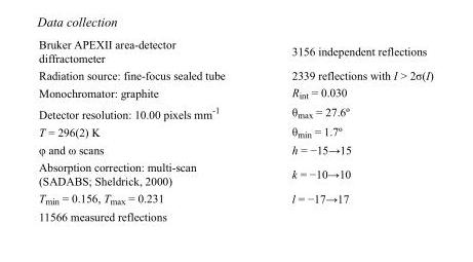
<table><tbody><tr><td>Bruker APEXII area-detector diffractometer</td><td>3156 independent reflections</td></tr><tr><td>Radiation source: fine-focus sealed tube</td><td>2339 reflections with I &gt; 2σ(I)</td></tr><tr><td>Monochromator: graphite</td><td>R<sub>int</sub> = 0.030</td></tr><tr><td>Detector resolution: 10.00 pixels mm<sup>-1</sup></td><td>θ<sub>max</sub> = 27.6º</td></tr><tr><td>T = 296(2) K</td><td>θ<sub>min</sub> = 1.7º</td></tr><tr><td>φ and ω scans</td><td>h = −15→15</td></tr><tr><td>Absorption correction: multi-scan (SADABS; Sheldrick, 2000)</td><td>k = −10→10</td></tr><tr><td>T<sub>min</sub> = 0.156, T<sub>max</sub> = 0.231</td><td>l = −17→17</td></tr><tr><td>11566 measured reflections</td><td></td></tr></tbody></table>